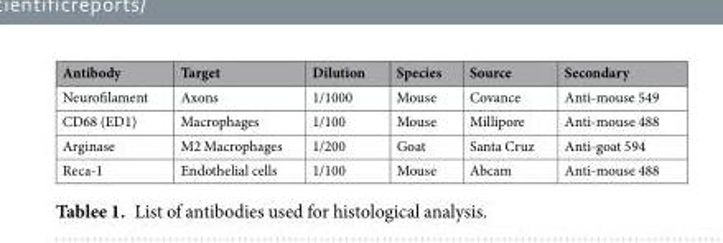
<table><thead><tr><td>Antibody</td><td>Target</td><td>Dilution</td><td>Species</td><td>Source</td><td>Secondary</td></tr></thead><tbody><tr><td>Neurofilament</td><td>Axons</td><td>1/1000</td><td>Mouse</td><td>Covance</td><td>Anti-mouse 549</td></tr><tr><td>CD68 (ED1)</td><td>Macrophages</td><td>1/100</td><td>Mouse</td><td>Millipore</td><td>Anti-mouse 488</td></tr><tr><td>Arginase</td><td>M2 Macrophages</td><td>1/200</td><td>Goat</td><td>Santa Cruz</td><td>Anti-goat 594</td></tr><tr><td>Reca-1</td><td>Endothelial cells</td><td>1/100</td><td>Mouse</td><td>Abcam</td><td>Anti-mouse 488</td></tr></tbody></table>